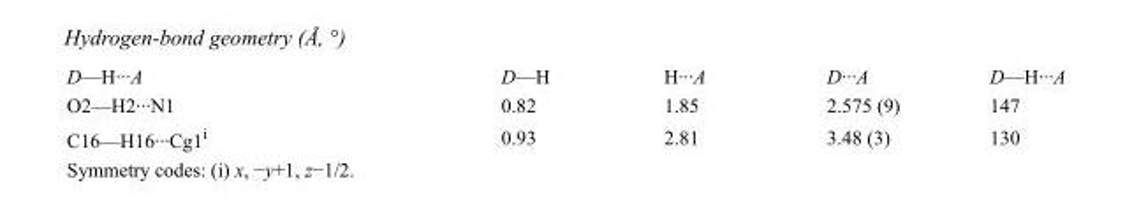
<table><tbody><tr><td>D—H···A</td><td>D—H</td><td>H···A</td><td>D···A</td><td>D—H···A</td></tr><tr><td>O2—H2···N1</td><td>0.82</td><td>1.85</td><td>2.575 (9)</td><td>147</td></tr><tr><td>C16—H16···Cg1<sup>i</sup></td><td>0.93</td><td>2.81</td><td>3.48 (3)</td><td>130</td></tr></tbody></table>